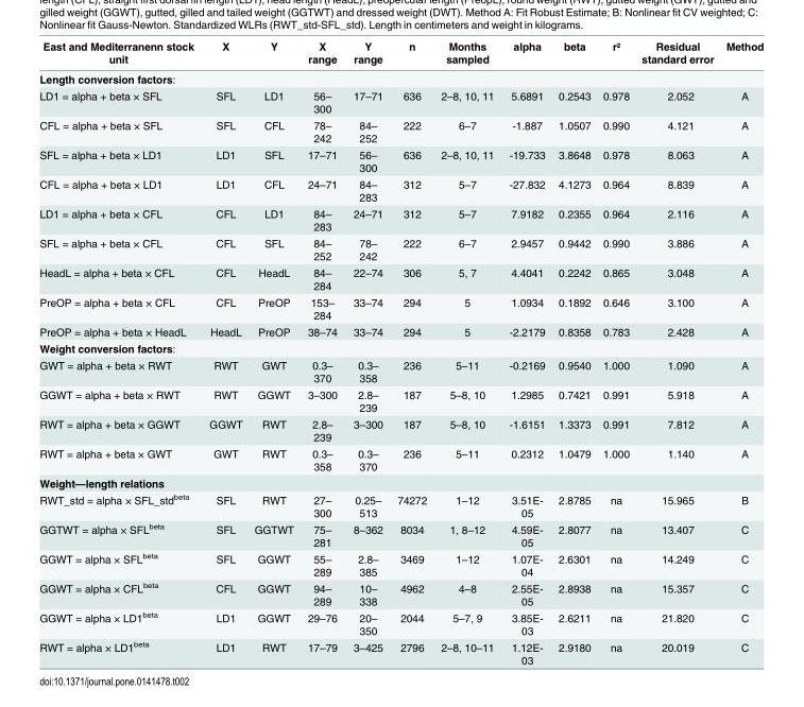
<table><thead><tr><td>East and Mediterranenn stock unit</td><td>X</td><td>Y</td><td>X range</td><td>Y range</td><td>n</td><td>Months sampled</td><td>alpha</td><td>beta</td><td>r²</td><td>Residual standard error</td><td>Method</td></tr></thead><tbody><tr><td colspan="12">Length conversion factors:</td></tr><tr><td>LD1 = alpha + beta × SFL</td><td>SFL</td><td>LD1</td><td>56– 300</td><td>17–71</td><td>636</td><td>2–8, 10, 11</td><td>5.6891</td><td>0.2543</td><td>0.978</td><td>2.052</td><td>A</td></tr><tr><td>CFL = alpha + beta × SFL</td><td>SFL</td><td>CFL</td><td>78– 242</td><td>84– 252</td><td>222</td><td>6–7</td><td>-1.887</td><td>1.0507</td><td>0.990</td><td>4.121</td><td>A</td></tr><tr><td>SFL = alpha + beta × LD1</td><td>LD1</td><td>SFL</td><td>17–71</td><td>56– 300</td><td>636</td><td>2–8, 10, 11</td><td>-19.733</td><td>3.8648</td><td>0.978</td><td>8.063</td><td>A</td></tr><tr><td>CFL = alpha + beta × LD1</td><td>LD1</td><td>CFL</td><td>24–71</td><td>84– 283</td><td>312</td><td>5–7</td><td>-27.832</td><td>4.1273</td><td>0.964</td><td>8.839</td><td>A</td></tr><tr><td>LD1 = alpha + beta × CFL</td><td>CFL</td><td>LD1</td><td>84– 283</td><td>24–71</td><td>312</td><td>5–7</td><td>7.9182</td><td>0.2355</td><td>0.964</td><td>2.116</td><td>A</td></tr><tr><td>SFL = alpha + beta × CFL</td><td>CFL</td><td>SFL</td><td>84– 252</td><td>78– 242</td><td>222</td><td>6–7</td><td>2.9457</td><td>0.9442</td><td>0.990</td><td>3.886</td><td>A</td></tr><tr><td>HeadL = alpha + beta × CFL</td><td>CFL</td><td>HeadL</td><td>84– 284</td><td>22–74</td><td>306</td><td>5, 7</td><td>4.4041</td><td>0.2242</td><td>0.865</td><td>3.048</td><td>A</td></tr><tr><td>PreOP = alpha + beta × CFL</td><td>CFL</td><td>PreOP</td><td>153– 284</td><td>33–74</td><td>294</td><td>5</td><td>1.0934</td><td>0.1892</td><td>0.646</td><td>3.100</td><td>A</td></tr><tr><td>PreOP = alpha + beta × HeadL</td><td>HeadL</td><td>PreOP</td><td>38–74</td><td>33–74</td><td>294</td><td>5</td><td>-2.2179</td><td>0.8358</td><td>0.783</td><td>2.428</td><td>A</td></tr><tr><td colspan="12">Weight conversion factors:</td></tr><tr><td>GWT = alpha + beta × RWT</td><td>RWT</td><td>GWT</td><td>0.3– 370</td><td>0.3– 358</td><td>236</td><td>5–11</td><td>-0.2169</td><td>0.9540</td><td>1.000</td><td>1.090</td><td>A</td></tr><tr><td>GGWT = alpha + beta × RWT</td><td>RWT</td><td>GGWT</td><td>3–300</td><td>2.8– 239</td><td>187</td><td>5–8, 10</td><td>1.2985</td><td>0.7421</td><td>0.991</td><td>5.918</td><td>A</td></tr><tr><td>RWT = alpha + beta × GGWT</td><td>GGWT</td><td>RWT</td><td>2.8– 239</td><td>3–300</td><td>187</td><td>5–8, 10</td><td>-1.6151</td><td>1.3373</td><td>0.991</td><td>7.812</td><td>A</td></tr><tr><td>RWT = alpha + beta × GWT</td><td>GWT</td><td>RWT</td><td>0.3– 358</td><td>0.3– 370</td><td>236</td><td>5–11</td><td>0.2312</td><td>1.0479</td><td>1.000</td><td>1.140</td><td>A</td></tr><tr><td colspan="12">Weight—length relations</td></tr><tr><td>RWT_std = alpha × SFL_std<sup>beta</sup></td><td>SFL</td><td>RWT</td><td>27– 300</td><td>0.25– 513</td><td>74272</td><td>1–12</td><td>3.51E- 05</td><td>2.8785</td><td>na</td><td>15.965</td><td>B</td></tr><tr><td>GGTWT = alpha × SFL<sup>beta</sup></td><td>SFL</td><td>GGTWT</td><td>75– 281</td><td>8–362</td><td>8034</td><td>1, 8–12</td><td>4.59E- 05</td><td>2.8077</td><td>na</td><td>13.407</td><td>C</td></tr><tr><td>GGWT = alpha × SFL<sup>beta</sup></td><td>SFL</td><td>GGWT</td><td>55– 289</td><td>2.8– 385</td><td>3469</td><td>1–12</td><td>1.07E- 04</td><td>2.6301</td><td>na</td><td>14.249</td><td>C</td></tr><tr><td>GGWT = alpha × CFL<sup>beta</sup></td><td>CFL</td><td>GGWT</td><td>94– 289</td><td>10– 338</td><td>4962</td><td>4–8</td><td>2.55E- 05</td><td>2.8938</td><td>na</td><td>15.357</td><td>C</td></tr><tr><td>GGWT = alpha × LD1<sup>beta</sup></td><td>LD1</td><td>GGWT</td><td>29–76</td><td>20– 350</td><td>2044</td><td>5–7, 9</td><td>3.85E- 03</td><td>2.6211</td><td>na</td><td>21.820</td><td>C</td></tr><tr><td>RWT = alpha × LD1<sup>beta</sup></td><td>LD1</td><td>RWT</td><td>17–79</td><td>3–425</td><td>2796</td><td>2–8, 10–11</td><td>1.12E- 03</td><td>2.9180</td><td>na</td><td>20.019</td><td>C</td></tr></tbody></table>